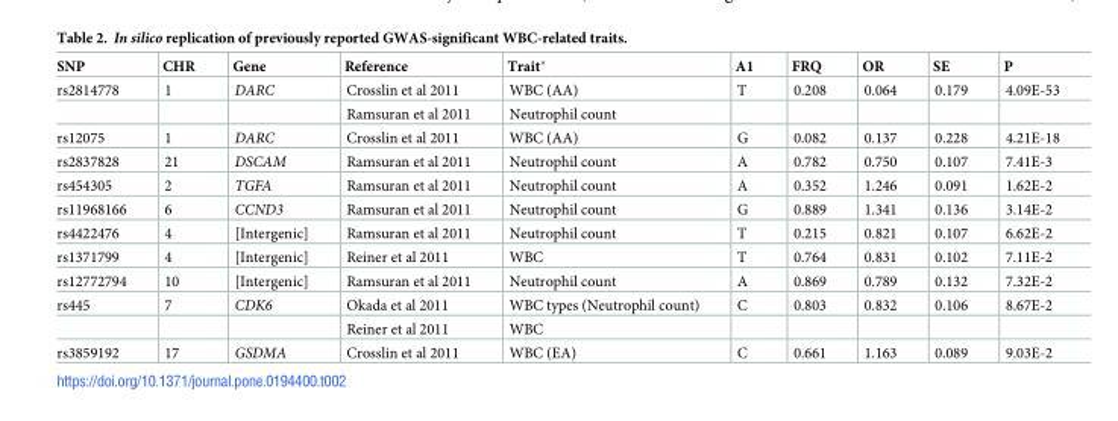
<table><thead><tr><td>SNP</td><td>CHR</td><td>Gene</td><td>Reference</td><td>Trait*</td><td>A1</td><td>FRQ</td><td>OR</td><td>SE</td><td>P</td></tr></thead><tbody><tr><td rowspan="2">rs2814778</td><td>1</td><td>DARC</td><td>Crosslin et al 2011</td><td>WBC (AA)</td><td>T</td><td>0.208</td><td>0.064</td><td>0.179</td><td>4.09E-53</td></tr><tr><td></td><td></td><td>Ramsuran et al 2011</td><td>Neutrophil count</td><td></td><td></td><td></td><td></td><td></td></tr><tr><td>rs12075</td><td>1</td><td>DARC</td><td>Crosslin et al 2011</td><td>WBC (AA)</td><td>G</td><td>0.082</td><td>0.137</td><td>0.228</td><td>4.21E-18</td></tr><tr><td>rs2837828</td><td>21</td><td>DSCAM</td><td>Ramsuran et al 2011</td><td>Neutrophil count</td><td>A</td><td>0.782</td><td>0.750</td><td>0.107</td><td>7.41E-3</td></tr><tr><td>rs454305</td><td>2</td><td>TGFA</td><td>Ramsuran et al 2011</td><td>Neutrophil count</td><td>A</td><td>0.352</td><td>1.246</td><td>0.091</td><td>1.62E-2</td></tr><tr><td>rs11968166</td><td>6</td><td>CCND3</td><td>Ramsuran et al 2011</td><td>Neutrophil count</td><td>G</td><td>0.889</td><td>1.341</td><td>0.136</td><td>3.14E-2</td></tr><tr><td>rs4422476</td><td>4</td><td>[Intergenic]</td><td>Ramsuran et al 2011</td><td>Neutrophil count</td><td>T</td><td>0.215</td><td>0.821</td><td>0.107</td><td>6.62E-2</td></tr><tr><td>rs1371799</td><td>4</td><td>[Intergenic]</td><td>Reiner et al 2011</td><td>WBC</td><td>T</td><td>0.764</td><td>0.831</td><td>0.102</td><td>7.11E-2</td></tr><tr><td>rs12772794</td><td>10</td><td>[Intergenic]</td><td>Ramsuran et al 2011</td><td>Neutrophil count</td><td>A</td><td>0.869</td><td>0.789</td><td>0.132</td><td>7.32E-2</td></tr><tr><td rowspan="2">rs445</td><td>7</td><td>CDK6</td><td>Okada et al 2011</td><td>WBC types (Neutrophil count)</td><td>C</td><td>0.803</td><td>0.832</td><td>0.106</td><td>8.67E-2</td></tr><tr><td></td><td></td><td>Reiner et al 2011</td><td>WBC</td><td></td><td></td><td></td><td></td><td></td></tr><tr><td>rs3859192</td><td>17</td><td>GSDMA</td><td>Crosslin et al 2011</td><td>WBC (EA)</td><td>C</td><td>0.661</td><td>1.163</td><td>0.089</td><td>9.03E-2</td></tr></tbody></table>